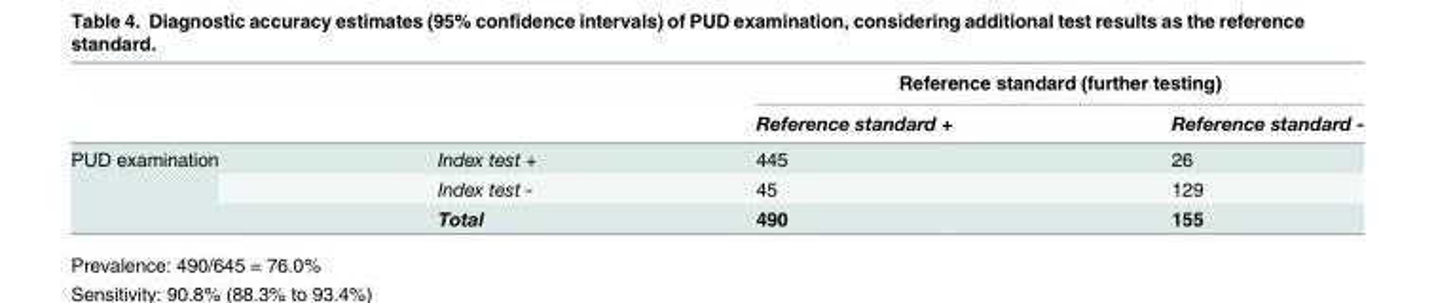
<table><thead><tr><td rowspan="2"></td><td rowspan="2"></td><td colspan="2">Reference standard (further testing)</td></tr><tr><td>Reference standard +</td><td>Reference standard -</td></tr></thead><tbody><tr><td rowspan="3">PUD examination</td><td>Index test +</td><td>445</td><td>26</td></tr><tr><td>Index test -</td><td>45</td><td>129</td></tr><tr><td>Total</td><td>490</td><td>155</td></tr></tbody></table>